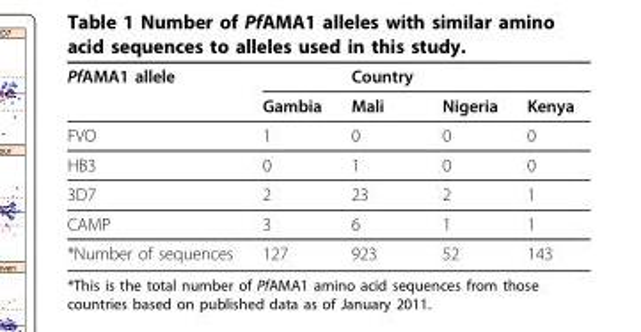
<table><thead><tr><td rowspan="2">PfAMA1 allele</td><td rowspan="2">Gambia</td><td rowspan="2">Country Mali</td><td rowspan="2">Nigeria</td><td rowspan="2">Kenya</td></tr><tr></tr></thead><tbody><tr><td>FVO</td><td>1</td><td>0</td><td>0</td><td>0</td></tr><tr><td>HB3</td><td>0</td><td>1</td><td>0</td><td>0</td></tr><tr><td>3D7</td><td>2</td><td>23</td><td>2</td><td>1</td></tr><tr><td>CAMP</td><td>3</td><td>6</td><td>1</td><td>1</td></tr><tr><td>*Number of sequences</td><td>127</td><td>923</td><td>52</td><td>143</td></tr></tbody></table>